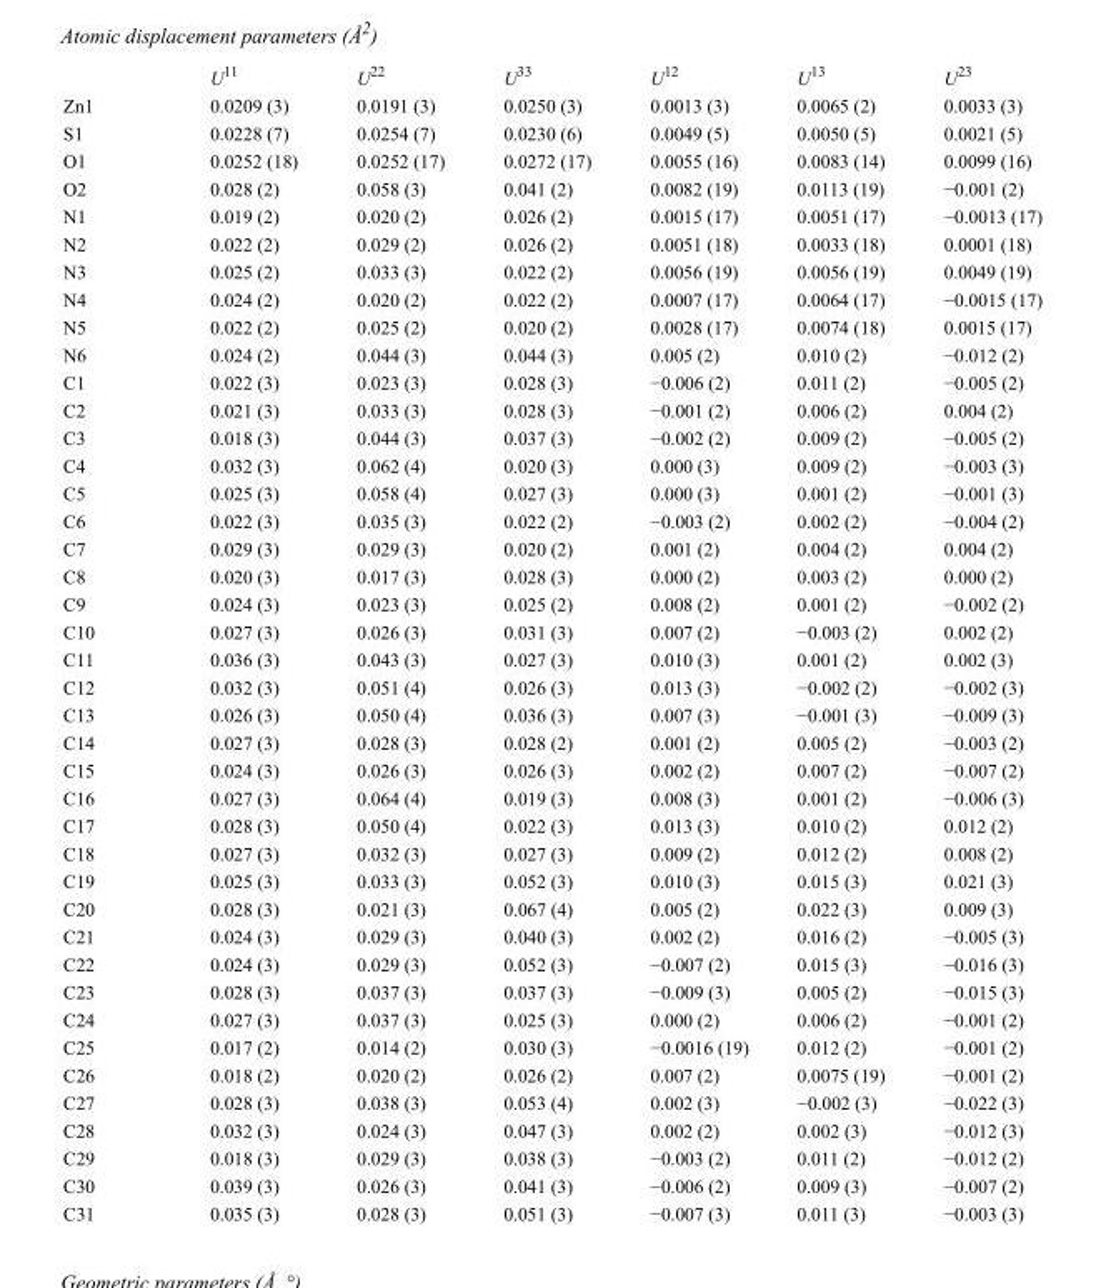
<table><thead><tr><td></td><td>U<sup>11</sup></td><td>U<sup>22</sup></td><td>U<sup>33</sup></td><td>U<sup>12</sup></td><td>U<sup>13</sup></td><td>U<sup>23</sup></td></tr></thead><tbody><tr><td>Zn1</td><td>0.0209 (3)</td><td>0.0191 (3)</td><td>0.0250 (3)</td><td>0.0013 (3)</td><td>0.0065 (2)</td><td>0.0033 (3)</td></tr><tr><td>S1</td><td>0.0228 (7)</td><td>0.0254 (7)</td><td>0.0230 (6)</td><td>0.0049 (5)</td><td>0.0050 (5)</td><td>0.0021 (5)</td></tr><tr><td>O1</td><td>0.0252 (18)</td><td>0.0252 (17)</td><td>0.0272 (17)</td><td>0.0055 (16)</td><td>0.0083 (14)</td><td>0.0099 (16)</td></tr><tr><td>O2</td><td>0.028 (2)</td><td>0.058 (3)</td><td>0.041 (2)</td><td>0.0082 (19)</td><td>0.0113 (19)</td><td>−0.001 (2)</td></tr><tr><td>N1</td><td>0.019 (2)</td><td>0.020 (2)</td><td>0.026 (2)</td><td>0.0015 (17)</td><td>0.0051 (17)</td><td>−0.0013 (17)</td></tr><tr><td>N2</td><td>0.022 (2)</td><td>0.029 (2)</td><td>0.026 (2)</td><td>0.0051 (18)</td><td>0.0033 (18)</td><td>0.0001 (18)</td></tr><tr><td>N3</td><td>0.025 (2)</td><td>0.033 (3)</td><td>0.022 (2)</td><td>0.0056 (19)</td><td>0.0056 (19)</td><td>0.0049 (19)</td></tr><tr><td>N4</td><td>0.024 (2)</td><td>0.020 (2)</td><td>0.022 (2)</td><td>0.0007 (17)</td><td>0.0064 (17)</td><td>−0.0015 (17)</td></tr><tr><td>N5</td><td>0.022 (2)</td><td>0.025 (2)</td><td>0.020 (2)</td><td>0.0028 (17)</td><td>0.0074 (18)</td><td>0.0015 (17)</td></tr><tr><td>N6</td><td>0.024 (2)</td><td>0.044 (3)</td><td>0.044 (3)</td><td>0.005 (2)</td><td>0.010 (2)</td><td>−0.012 (2)</td></tr><tr><td>C1</td><td>0.022 (3)</td><td>0.023 (3)</td><td>0.028 (3)</td><td>−0.006 (2)</td><td>0.011 (2)</td><td>−0.005 (2)</td></tr><tr><td>C2</td><td>0.021 (3)</td><td>0.033 (3)</td><td>0.028 (3)</td><td>−0.001 (2)</td><td>0.006 (2)</td><td>0.004 (2)</td></tr><tr><td>C3</td><td>0.018 (3)</td><td>0.044 (3)</td><td>0.037 (3)</td><td>−0.002 (2)</td><td>0.009 (2)</td><td>−0.005 (2)</td></tr><tr><td>C4</td><td>0.032 (3)</td><td>0.062 (4)</td><td>0.020 (3)</td><td>0.000 (3)</td><td>0.009 (2)</td><td>−0.003 (3)</td></tr><tr><td>C5</td><td>0.025 (3)</td><td>0.058 (4)</td><td>0.027 (3)</td><td>0.000 (3)</td><td>0.001 (2)</td><td>−0.001 (3)</td></tr><tr><td>C6</td><td>0.022 (3)</td><td>0.035 (3)</td><td>0.022 (2)</td><td>−0.003 (2)</td><td>0.002 (2)</td><td>−0.004 (2)</td></tr><tr><td>C7</td><td>0.029 (3)</td><td>0.029 (3)</td><td>0.020 (2)</td><td>0.001 (2)</td><td>0.004 (2)</td><td>0.004 (2)</td></tr><tr><td>C8</td><td>0.020 (3)</td><td>0.017 (3)</td><td>0.028 (3)</td><td>0.000 (2)</td><td>0.003 (2)</td><td>0.000 (2)</td></tr><tr><td>C9</td><td>0.024 (3)</td><td>0.023 (3)</td><td>0.025 (2)</td><td>0.008 (2)</td><td>0.001 (2)</td><td>−0.002 (2)</td></tr><tr><td>C10</td><td>0.027 (3)</td><td>0.026 (3)</td><td>0.031 (3)</td><td>0.007 (2)</td><td>−0.003 (2)</td><td>0.002 (2)</td></tr><tr><td>C11</td><td>0.036 (3)</td><td>0.043 (3)</td><td>0.027 (3)</td><td>0.010 (3)</td><td>0.001 (2)</td><td>0.002 (3)</td></tr><tr><td>C12</td><td>0.032 (3)</td><td>0.051 (4)</td><td>0.026 (3)</td><td>0.013 (3)</td><td>−0.002 (2)</td><td>−0.002 (3)</td></tr><tr><td>C13</td><td>0.026 (3)</td><td>0.050 (4)</td><td>0.036 (3)</td><td>0.007 (3)</td><td>−0.001 (3)</td><td>−0.009 (3)</td></tr><tr><td>C14</td><td>0.027 (3)</td><td>0.028 (3)</td><td>0.028 (2)</td><td>0.001 (2)</td><td>0.005 (2)</td><td>−0.003 (2)</td></tr><tr><td>C15</td><td>0.024 (3)</td><td>0.026 (3)</td><td>0.026 (3)</td><td>0.002 (2)</td><td>0.007 (2)</td><td>−0.007 (2)</td></tr><tr><td>C16</td><td>0.027 (3)</td><td>0.064 (4)</td><td>0.019 (3)</td><td>0.008 (3)</td><td>0.001 (2)</td><td>−0.006 (3)</td></tr><tr><td>C17</td><td>0.028 (3)</td><td>0.050 (4)</td><td>0.022 (3)</td><td>0.013 (3)</td><td>0.010 (2)</td><td>0.012 (2)</td></tr><tr><td>C18</td><td>0.027 (3)</td><td>0.032 (3)</td><td>0.027 (3)</td><td>0.009 (2)</td><td>0.012 (2)</td><td>0.008 (2)</td></tr><tr><td>C19</td><td>0.025 (3)</td><td>0.033 (3)</td><td>0.052 (3)</td><td>0.010 (3)</td><td>0.015 (3)</td><td>0.021 (3)</td></tr><tr><td>C20</td><td>0.028 (3)</td><td>0.021 (3)</td><td>0.067 (4)</td><td>0.005 (2)</td><td>0.022 (3)</td><td>0.009 (3)</td></tr><tr><td>C21</td><td>0.024 (3)</td><td>0.029 (3)</td><td>0.040 (3)</td><td>0.002 (2)</td><td>0.016 (2)</td><td>−0.005 (3)</td></tr><tr><td>C22</td><td>0.024 (3)</td><td>0.029 (3)</td><td>0.052 (3)</td><td>−0.007 (2)</td><td>0.015 (3)</td><td>−0.016 (3)</td></tr><tr><td>C23</td><td>0.028 (3)</td><td>0.037 (3)</td><td>0.037 (3)</td><td>−0.009 (3)</td><td>0.005 (2)</td><td>−0.015 (3)</td></tr><tr><td>C24</td><td>0.027 (3)</td><td>0.037 (3)</td><td>0.025 (3)</td><td>0.000 (2)</td><td>0.006 (2)</td><td>−0.001 (2)</td></tr><tr><td>C25</td><td>0.017 (2)</td><td>0.014 (2)</td><td>0.030 (3)</td><td>−0.0016 (19)</td><td>0.012 (2)</td><td>−0.001 (2)</td></tr><tr><td>C26</td><td>0.018 (2)</td><td>0.020 (2)</td><td>0.026 (2)</td><td>0.007 (2)</td><td>0.0075 (19)</td><td>−0.001 (2)</td></tr><tr><td>C27</td><td>0.028 (3)</td><td>0.038 (3)</td><td>0.053 (4)</td><td>0.002 (3)</td><td>−0.002 (3)</td><td>−0.022 (3)</td></tr><tr><td>C28</td><td>0.032 (3)</td><td>0.024 (3)</td><td>0.047 (3)</td><td>0.002 (2)</td><td>0.002 (3)</td><td>−0.012 (3)</td></tr><tr><td>C29</td><td>0.018 (3)</td><td>0.029 (3)</td><td>0.038 (3)</td><td>−0.003 (2)</td><td>0.011 (2)</td><td>−0.012 (2)</td></tr><tr><td>C30</td><td>0.039 (3)</td><td>0.026 (3)</td><td>0.041 (3)</td><td>−0.006 (2)</td><td>0.009 (3)</td><td>−0.007 (2)</td></tr><tr><td>C31</td><td>0.035 (3)</td><td>0.028 (3)</td><td>0.051 (3)</td><td>−0.007 (3)</td><td>0.011 (3)</td><td>−0.003 (3)</td></tr></tbody></table>